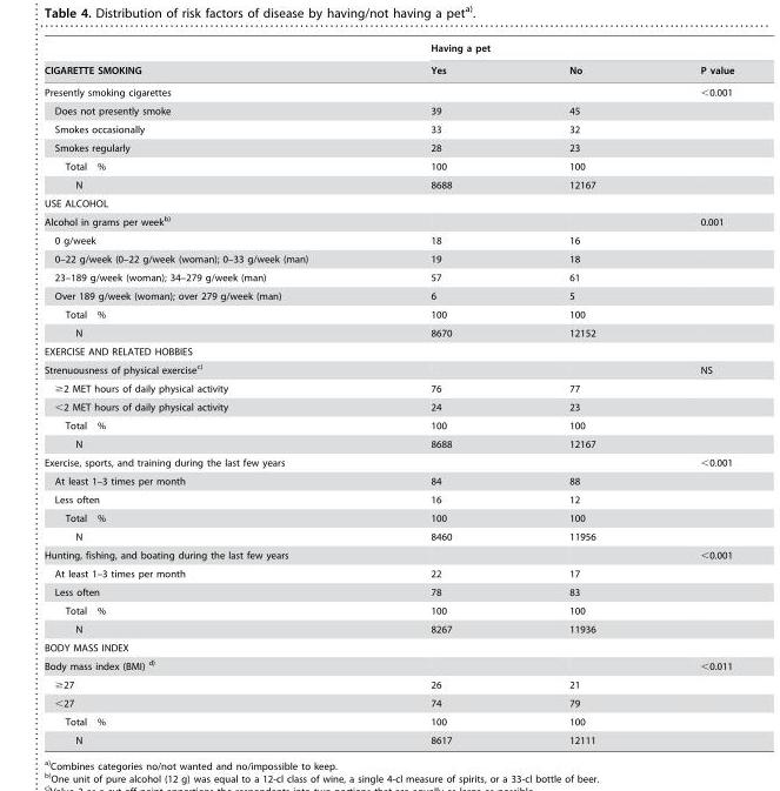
<table><thead><tr><td rowspan="2">CIGARETTE SMOKING</td><td colspan="3">Having a pet</td></tr><tr><td>Yes</td><td>No</td><td>P value</td></tr></thead><tbody><tr><td>Presently smoking cigarettes</td><td></td><td></td><td>&lt;0.001</td></tr><tr><td>Does not presently smoke</td><td>39</td><td>45</td><td></td></tr><tr><td>Smokes occasionally</td><td>33</td><td>32</td><td></td></tr><tr><td>Smokes regularly</td><td>28</td><td>23</td><td></td></tr><tr><td>Total %</td><td>100</td><td>100</td><td></td></tr><tr><td>N</td><td>8688</td><td>12167</td><td></td></tr><tr><td colspan="4">USE ALCOHOL</td></tr><tr><td>Alcohol in grams per weekb)</td><td></td><td></td><td>0.001</td></tr><tr><td>0 g/week</td><td>18</td><td>16</td><td></td></tr><tr><td>0–22 g/week (0–22 g/week (woman); 0–33 g/week (man)</td><td>19</td><td>18</td><td></td></tr><tr><td>23–189 g/week (woman); 34–279 g/week (man)</td><td>57</td><td>61</td><td></td></tr><tr><td>Over 189 g/week (woman); over 279 g/week (man)</td><td>6</td><td>5</td><td></td></tr><tr><td>Total %</td><td>100</td><td>100</td><td></td></tr><tr><td>N</td><td>8670</td><td>12152</td><td></td></tr><tr><td colspan="4">EXERCISE AND RELATED HOBBIES</td></tr><tr><td>Strenuousness of physical exercisec)</td><td></td><td></td><td>NS</td></tr><tr><td>≥2 MET hours of daily physical activity</td><td>76</td><td>77</td><td></td></tr><tr><td>&lt;2 MET hours of daily physical activity</td><td>24</td><td>23</td><td></td></tr><tr><td>Total %</td><td>100</td><td>100</td><td></td></tr><tr><td>N</td><td>8688</td><td>12167</td><td></td></tr><tr><td>Exercise, sports, and training during the last few years</td><td></td><td></td><td>&lt;0.001</td></tr><tr><td>At least 1–3 times per month</td><td>84</td><td>88</td><td></td></tr><tr><td>Less often</td><td>16</td><td>12</td><td></td></tr><tr><td>Total %</td><td>100</td><td>100</td><td></td></tr><tr><td>N</td><td>8460</td><td>11956</td><td></td></tr><tr><td>Hunting, fishing, and boating during the last few years</td><td></td><td></td><td>&lt;0.001</td></tr><tr><td>At least 1–3 times per month</td><td>22</td><td>17</td><td></td></tr><tr><td>Less often</td><td>78</td><td>83</td><td></td></tr><tr><td>Total %</td><td>100</td><td>100</td><td></td></tr><tr><td>N</td><td>8267</td><td>11936</td><td></td></tr><tr><td colspan="4">BODY MASS INDEX</td></tr><tr><td>Body mass index (BMI) d)</td><td></td><td></td><td>&lt;0.011</td></tr><tr><td>≥27</td><td>26</td><td>21</td><td></td></tr><tr><td>&lt;27</td><td>74</td><td>79</td><td></td></tr><tr><td>Total %</td><td>100</td><td>100</td><td></td></tr><tr><td>N</td><td>8617</td><td>12111</td><td></td></tr></tbody></table>